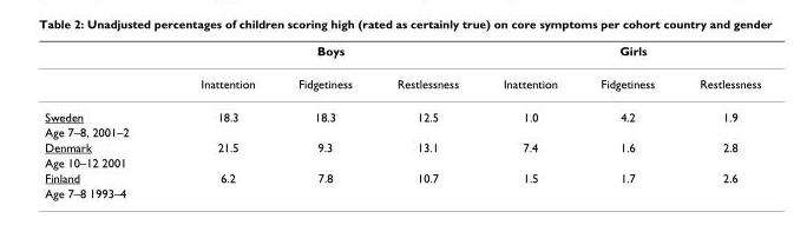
<table><thead><tr><td rowspan="2"></td><td colspan="3">Boys</td><td colspan="3">Girls</td></tr><tr><td>Inattention</td><td>Fidgetiness</td><td>Restlessness</td><td>Inattention</td><td>Fidgetiness</td><td>Restlessness</td></tr></thead><tbody><tr><td>Sweden</td><td>18.3</td><td>18.3</td><td>12.5</td><td>1.0</td><td>4.2</td><td>1.9</td></tr><tr><td colspan="7">Age 7–8, 2001–2</td></tr><tr><td>Denmark</td><td>21.5</td><td>9.3</td><td>13.1</td><td>7.4</td><td>1.6</td><td>2.8</td></tr><tr><td colspan="7">Age 10–12 2001</td></tr><tr><td>Finland</td><td>6.2</td><td>7.8</td><td>10.7</td><td>1.5</td><td>1.7</td><td>2.6</td></tr><tr><td>Age 7–8 1993–4</td><td></td><td></td><td></td><td></td><td></td><td></td></tr></tbody></table>